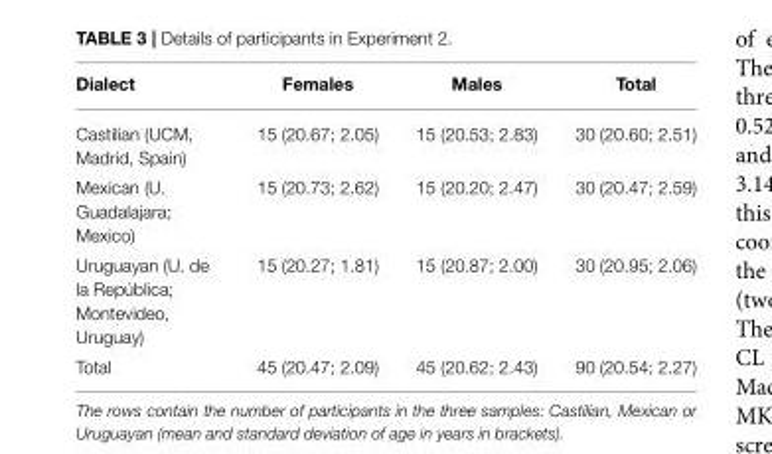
<table><thead><tr><td>Dialect</td><td>Females</td><td>Males</td><td>Total</td></tr></thead><tbody><tr><td>Castilian (UCM, Madrid, Spain)</td><td>15 (20.67; 2.05)</td><td>15 (20.53; 2.83)</td><td>30 (20.60; 2.51)</td></tr><tr><td>Mexican (U. Guadalajara; Mexico)</td><td>15 (20.73; 2.62)</td><td>15 (20.20; 2.47)</td><td>30 (20.47; 2.59)</td></tr><tr><td>Uruguayan (U. de la República; Montevideo, Uruguay)</td><td>15 (20.27; 1.81)</td><td>15 (20.87; 2.00)</td><td>30 (20.95; 2.06)</td></tr><tr><td>Total</td><td>45 (20.47; 2.09)</td><td>45 (20.62; 2.43)</td><td>90 (20.54; 2.27)</td></tr></tbody></table>